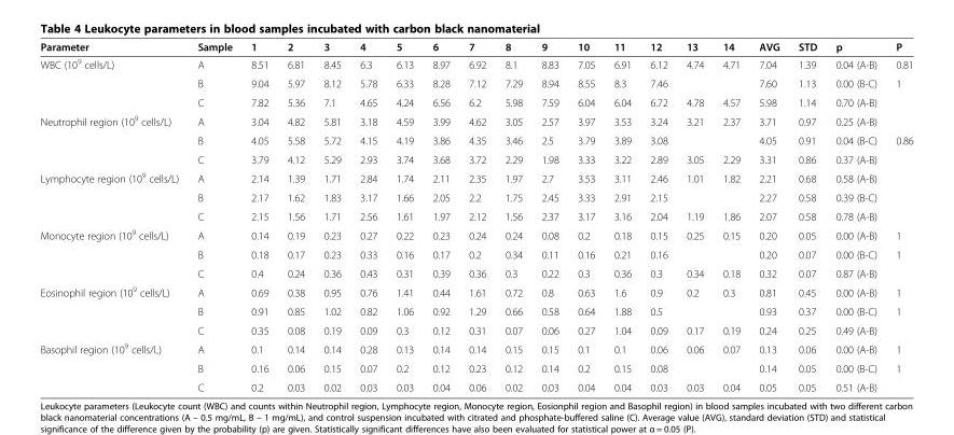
<table><thead><tr><td>Parameter</td><td>Sample</td><td>1</td><td>2</td><td>3</td><td>4</td><td>5</td><td>6</td><td>7</td><td>8</td><td>9</td><td>10</td><td>11</td><td>12</td><td>13</td><td>14</td><td>AVG</td><td>STD</td><td>p</td><td>P</td></tr></thead><tbody><tr><td rowspan="3">WBC (10<sup>9</sup> cells/L)</td><td>A</td><td>8.51</td><td>6.81</td><td>8.45</td><td>6.3</td><td>6.13</td><td>8.97</td><td>6.92</td><td>8.1</td><td>8.83</td><td>7.05</td><td>6.91</td><td>6.12</td><td>4.74</td><td>4.71</td><td>7.04</td><td>1.39</td><td>0.04 (A-B)</td><td>0.81</td></tr><tr><td>B</td><td>9.04</td><td>5.97</td><td>8.12</td><td>5.78</td><td>6.33</td><td>8.28</td><td>7.12</td><td>7.29</td><td>8.94</td><td>8.55</td><td>8.3</td><td>7.46</td><td></td><td></td><td>7.60</td><td>1.13</td><td>0.00 (B-C)</td><td>1</td></tr><tr><td>C</td><td>7.82</td><td>5.36</td><td>7.1</td><td>4.65</td><td>4.24</td><td>6.56</td><td>6.2</td><td>5.98</td><td>7.59</td><td>6.04</td><td>6.04</td><td>6.72</td><td>4.78</td><td>4.57</td><td>5.98</td><td>1.14</td><td>0.70 (A-B)</td><td></td></tr><tr><td rowspan="3">Neutrophil region (10<sup>9</sup> cells/L)</td><td>A</td><td>3.04</td><td>4.82</td><td>5.81</td><td>3.18</td><td>4.59</td><td>3.99</td><td>4.62</td><td>3.05</td><td>2.57</td><td>3.97</td><td>3.53</td><td>3.24</td><td>3.21</td><td>2.37</td><td>3.71</td><td>0.97</td><td>0.25 (A-B)</td><td></td></tr><tr><td>B</td><td>4.05</td><td>5.58</td><td>5.72</td><td>4.15</td><td>4.19</td><td>3.86</td><td>4.35</td><td>3.46</td><td>2.5</td><td>3.79</td><td>3.89</td><td>3.08</td><td></td><td></td><td>4.05</td><td>0.91</td><td>0.04 (B-C)</td><td>0.86</td></tr><tr><td>C</td><td>3.79</td><td>4.12</td><td>5.29</td><td>2.93</td><td>3.74</td><td>3.68</td><td>3.72</td><td>2.29</td><td>1.98</td><td>3.33</td><td>3.22</td><td>2.89</td><td>3.05</td><td>2.29</td><td>3.31</td><td>0.86</td><td>0.37 (A-B)</td><td></td></tr><tr><td rowspan="3">Lymphocyte region (10<sup>9</sup> cells/L)</td><td>A</td><td>2.14</td><td>1.39</td><td>1.71</td><td>2.84</td><td>1.74</td><td>2.11</td><td>2.35</td><td>1.97</td><td>2.7</td><td>3.53</td><td>3.11</td><td>2.46</td><td>1.01</td><td>1.82</td><td>2.21</td><td>0.68</td><td>0.58 (A-B)</td><td></td></tr><tr><td>B</td><td>2.17</td><td>1.62</td><td>1.83</td><td>3.17</td><td>1.66</td><td>2.05</td><td>2.2</td><td>1.75</td><td>2.45</td><td>3.33</td><td>2.91</td><td>2.15</td><td></td><td></td><td>2.27</td><td>0.58</td><td>0.39 (B-C)</td><td></td></tr><tr><td>C</td><td>2.15</td><td>1.56</td><td>1.71</td><td>2.56</td><td>1.61</td><td>1.97</td><td>2.12</td><td>1.56</td><td>2.37</td><td>3.17</td><td>3.16</td><td>2.04</td><td>1.19</td><td>1.86</td><td>2.07</td><td>0.58</td><td>0.78 (A-B)</td><td></td></tr><tr><td rowspan="3">Monocyte region (10<sup>9</sup> cells/L)</td><td>A</td><td>0.14</td><td>0.19</td><td>0.23</td><td>0.27</td><td>0.22</td><td>0.23</td><td>0.24</td><td>0.24</td><td>0.08</td><td>0.2</td><td>0.18</td><td>0.15</td><td>0.25</td><td>0.15</td><td>0.20</td><td>0.05</td><td>0.00 (A-B)</td><td>1</td></tr><tr><td>B</td><td>0.18</td><td>0.17</td><td>0.23</td><td>0.33</td><td>0.16</td><td>0.17</td><td>0.2</td><td>0.34</td><td>0.11</td><td>0.16</td><td>0.21</td><td>0.16</td><td></td><td></td><td>0.20</td><td>0.07</td><td>0.00 (B-C)</td><td>1</td></tr><tr><td>C</td><td>0.4</td><td>0.24</td><td>0.36</td><td>0.43</td><td>0.31</td><td>0.39</td><td>0.36</td><td>0.3</td><td>0.22</td><td>0.3</td><td>0.36</td><td>0.3</td><td>0.34</td><td>0.18</td><td>0.32</td><td>0.07</td><td>0.87 (A-B)</td><td></td></tr><tr><td rowspan="3">Eosinophil region (10<sup>9</sup> cells/L)</td><td>A</td><td>0.69</td><td>0.38</td><td>0.95</td><td>0.76</td><td>1.41</td><td>0.44</td><td>1.61</td><td>0.72</td><td>0.8</td><td>0.63</td><td>1.6</td><td>0.9</td><td>0.2</td><td>0.3</td><td>0.81</td><td>0.45</td><td>0.00 (A-B)</td><td>1</td></tr><tr><td>B</td><td>0.91</td><td>0.85</td><td>1.02</td><td>0.82</td><td>1.06</td><td>0.92</td><td>1.29</td><td>0.66</td><td>0.58</td><td>0.64</td><td>1.88</td><td>0.5</td><td></td><td></td><td>0.93</td><td>0.37</td><td>0.00 (B-C)</td><td>1</td></tr><tr><td>C</td><td>0.35</td><td>0.08</td><td>0.19</td><td>0.09</td><td>0.3</td><td>0.12</td><td>0.31</td><td>0.07</td><td>0.06</td><td>0.27</td><td>1.04</td><td>0.09</td><td>0.17</td><td>0.19</td><td>0.24</td><td>0.25</td><td>0.49 (A-B)</td><td></td></tr><tr><td rowspan="3">Basophil region (10<sup>9</sup> cells/L)</td><td>A</td><td>0.1</td><td>0.14</td><td>0.14</td><td>0.28</td><td>0.13</td><td>0.14</td><td>0.14</td><td>0.15</td><td>0.15</td><td>0.1</td><td>0.1</td><td>0.06</td><td>0.06</td><td>0.07</td><td>0.13</td><td>0.06</td><td>0.00 (A-B)</td><td>1</td></tr><tr><td>B</td><td>0.16</td><td>0.06</td><td>0.15</td><td>0.07</td><td>0.2</td><td>0.12</td><td>0.23</td><td>0.12</td><td>0.14</td><td>0.2</td><td>0.15</td><td>0.08</td><td></td><td></td><td>0.14</td><td>0.05</td><td>0.00 (B-C)</td><td>1</td></tr><tr><td>C</td><td>0.2</td><td>0.03</td><td>0.02</td><td>0.03</td><td>0.03</td><td>0.04</td><td>0.06</td><td>0.02</td><td>0.03</td><td>0.04</td><td>0.04</td><td>0.03</td><td>0.03</td><td>0.04</td><td>0.05</td><td>0.05</td><td>0.51 (A-B)</td><td></td></tr></tbody></table>